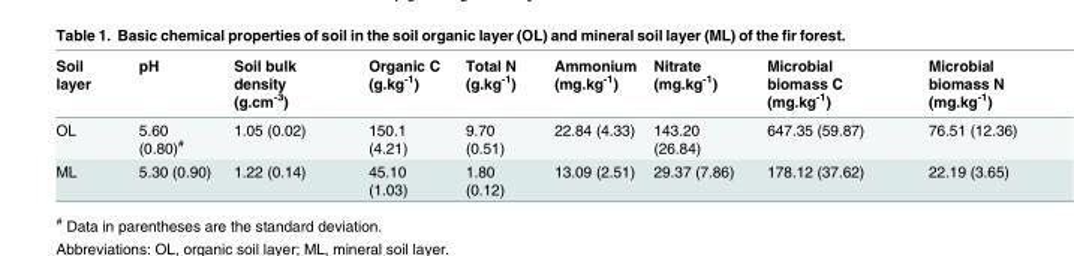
<table><thead><tr><td>Soil layer</td><td>pH</td><td>Soil bulk density (g.cm<sup>-3</sup>)</td><td>Organic C (g.kg<sup>-1</sup>)</td><td>Total N (g.kg<sup>-1</sup>)</td><td>Ammonium (mg.kg<sup>-1</sup>)</td><td>Nitrate (mg.kg<sup>-1</sup>)</td><td>Microbial biomass C (mg.kg<sup>-1</sup>)</td><td>Microbial biomass N (mg.kg<sup>-1</sup>)</td></tr></thead><tbody><tr><td>OL</td><td>5.60 (0.80)<sup>#</sup></td><td>1.05 (0.02)</td><td>150.1 (4.21)</td><td>9.70 (0.51)</td><td>22.84 (4.33)</td><td>143.20 (26.84)</td><td>647.35 (59.87)</td><td>76.51 (12.36)</td></tr><tr><td>ML</td><td>5.30 (0.90)</td><td>1.22 (0.14)</td><td>45.10 (1.03)</td><td>1.80 (0.12)</td><td>13.09 (2.51)</td><td>29.37 (7.86)</td><td>178.12 (37.62)</td><td>22.19 (3.65)</td></tr></tbody></table>